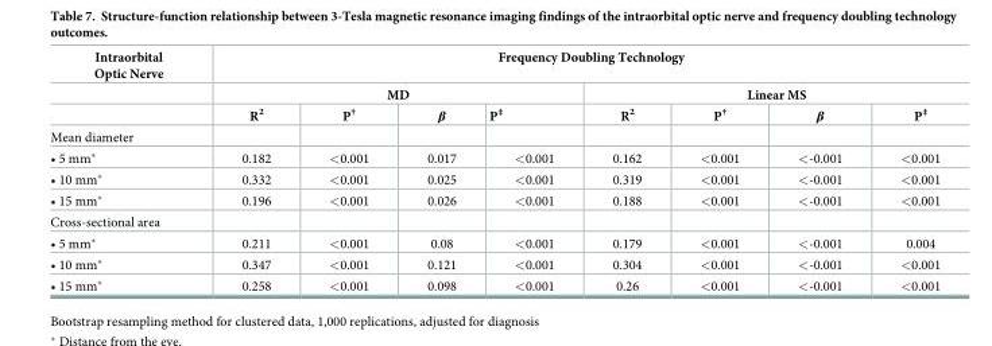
<table><thead><tr><td rowspan="3">Intraorbital Optic Nerve</td><td colspan="8">Frequency Doubling Technology</td></tr><tr><td colspan="4">MD</td><td colspan="4">Linear MS</td></tr><tr><td>R<sup>2</sup></td><td>P<sup>†</sup></td><td>β</td><td>P<sup>‡</sup></td><td>R<sup>2</sup></td><td>P<sup>†</sup></td><td>β</td><td>P<sup>‡</sup></td></tr></thead><tbody><tr><td colspan="9">Mean diameter</td></tr><tr><td>• 5 mm*</td><td>0.182</td><td>&lt;0.001</td><td>0.017</td><td>&lt;0.001</td><td>0.162</td><td>&lt;0.001</td><td>&lt;-0.001</td><td>&lt;0.001</td></tr><tr><td>• 10 mm*</td><td>0.332</td><td>&lt;0.001</td><td>0.025</td><td>&lt;0.001</td><td>0.319</td><td>&lt;0.001</td><td>&lt;-0.001</td><td>&lt;0.001</td></tr><tr><td>• 15 mm*</td><td>0.196</td><td>&lt;0.001</td><td>0.026</td><td>&lt;0.001</td><td>0.188</td><td>&lt;0.001</td><td>&lt;-0.001</td><td>&lt;0.001</td></tr><tr><td colspan="9">Cross-sectional area</td></tr><tr><td>• 5 mm*</td><td>0.211</td><td>&lt;0.001</td><td>0.08</td><td>&lt;0.001</td><td>0.179</td><td>&lt;0.001</td><td>&lt;-0.001</td><td>0.004</td></tr><tr><td>• 10 mm*</td><td>0.347</td><td>&lt;0.001</td><td>0.121</td><td>&lt;0.001</td><td>0.304</td><td>&lt;0.001</td><td>&lt;-0.001</td><td>&lt;0.001</td></tr><tr><td>• 15 mm*</td><td>0.258</td><td>&lt;0.001</td><td>0.098</td><td>&lt;0.001</td><td>0.26</td><td>&lt;0.001</td><td>&lt;-0.001</td><td>&lt;0.001</td></tr></tbody></table>